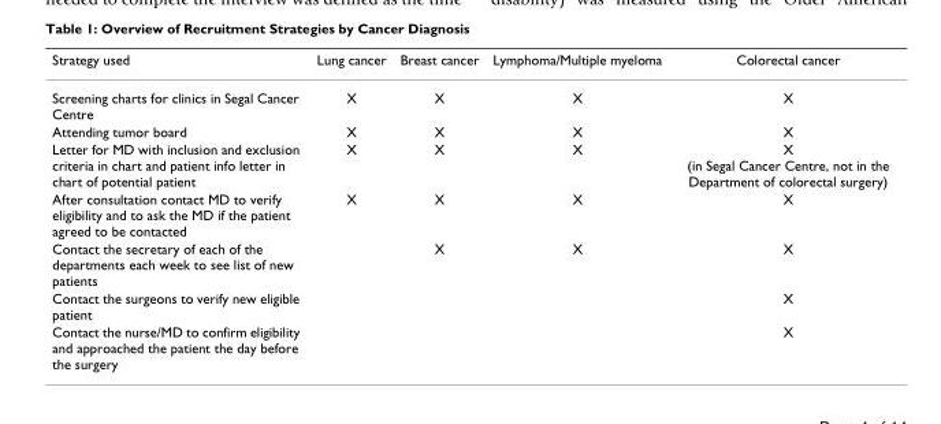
<table><thead><tr><td>Strategy used</td><td>Lung cancer</td><td>Breast cancer</td><td>Lymphoma/Multiple myeloma</td><td>Colorectal cancer</td></tr></thead><tbody><tr><td>Screening charts for clinics in Segal Cancer Centre</td><td>X</td><td>X</td><td>X</td><td>X</td></tr><tr><td>Attending tumor board</td><td>X</td><td>X</td><td>X</td><td>X</td></tr><tr><td>Letter for MD with inclusion and exclusion criteria in chart and patient info letter in chart of potential patient</td><td>X</td><td>X</td><td>X</td><td>X (in Segal Cancer Centre, not in the Department of colorectal surgery)</td></tr><tr><td>After consultation contact MD to verify eligibility and to ask the MD if the patient agreed to be contacted</td><td>X</td><td>X</td><td>X</td><td>X</td></tr><tr><td>Contact the secretary of each of the departments each week to see list of new patients</td><td></td><td>X</td><td>X</td><td>X</td></tr><tr><td>Contact the surgeons to verify new eligible patient</td><td></td><td></td><td></td><td>X</td></tr><tr><td>Contact the nurse/MD to confirm eligibility and approached the patient the day before the surgery</td><td></td><td></td><td></td><td>X</td></tr></tbody></table>